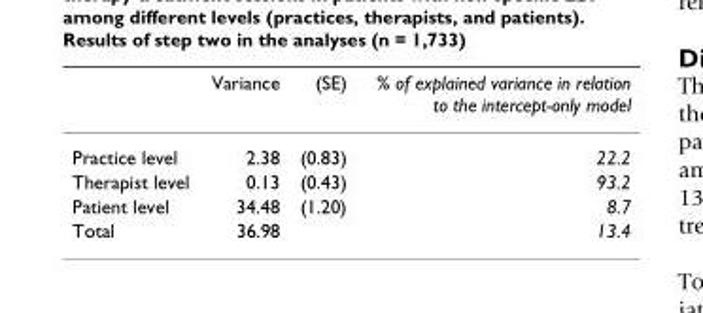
<table><thead><tr><td></td><td>Variance</td><td>(SE)</td><td>% of explained variance in relation to the intercept-only model</td></tr></thead><tbody><tr><td>Practice level</td><td>2.38</td><td>(0.83)</td><td>22.2</td></tr><tr><td>Therapist level</td><td>0.13</td><td>(0.43)</td><td>93.2</td></tr><tr><td>Patient level</td><td>34.48</td><td>(1.20)</td><td>8.7</td></tr><tr><td>Total</td><td>36.98</td><td></td><td>13.4</td></tr></tbody></table>